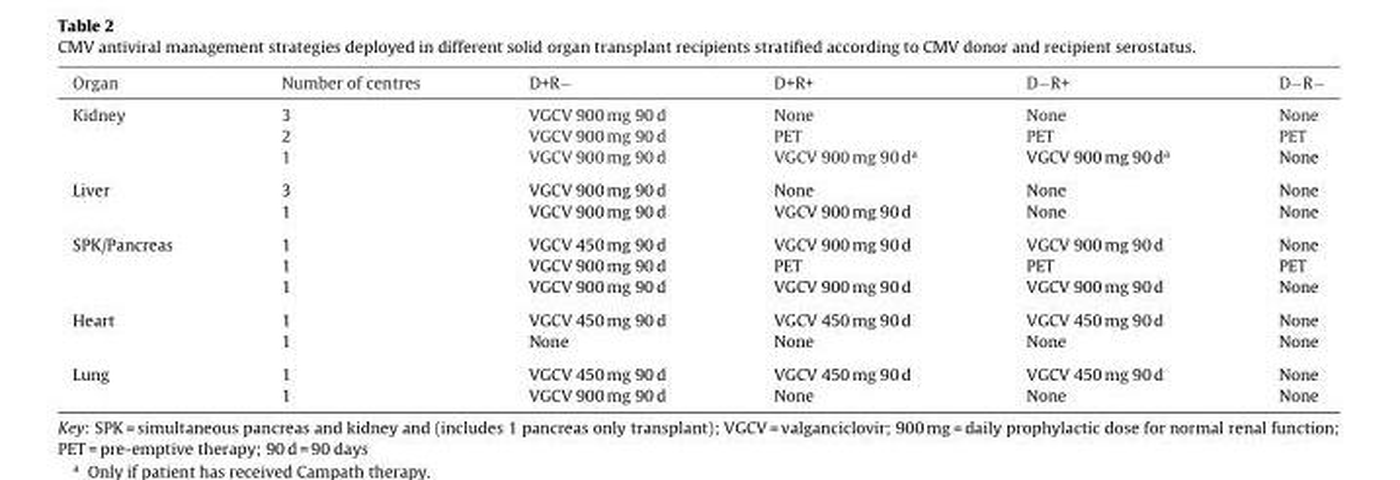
<table><thead><tr><td>Organ</td><td>Number of centres</td><td>D+R−</td><td>D+R+</td><td>D−R+</td><td>D−R−</td></tr></thead><tbody><tr><td rowspan="3">Kidney</td><td>3</td><td>VGCV 900 mg 90 d</td><td>None</td><td>None</td><td>None</td></tr><tr><td>2</td><td>VGCV 900 mg 90 d</td><td>PET</td><td>PET</td><td>PET</td></tr><tr><td>1</td><td>VGCV 900 mg 90 d</td><td>VGCV 900 mg 90 d<sup>a</sup></td><td>VGCV 900 mg 90 d<sup>a</sup></td><td>None</td></tr><tr><td rowspan="2">Liver</td><td>3</td><td>VGCV 900 mg 90 d</td><td>None</td><td>None</td><td>None</td></tr><tr><td>1</td><td>VGCV 900 mg 90 d</td><td>VGCV 900 mg 90 d</td><td>None</td><td>None</td></tr><tr><td rowspan="3">SPK/Pancreas</td><td>1</td><td>VGCV 450 mg 90 d</td><td>VGCV 900 mg 90 d</td><td>VGCV 900 mg 90 d</td><td>None</td></tr><tr><td>1</td><td>VGCV 900 mg 90 d</td><td>PET</td><td>PET</td><td>PET</td></tr><tr><td>1</td><td>VGCV 900 mg 90 d</td><td>VGCV 900 mg 90 d</td><td>VGCV 900 mg 90 d</td><td>None</td></tr><tr><td rowspan="2">Heart</td><td>1</td><td>VGCV 450 mg 90 d</td><td>VGCV 450 mg 90 d</td><td>VGCV 450 mg 90 d</td><td>None</td></tr><tr><td>1</td><td>None</td><td>None</td><td>None</td><td>None</td></tr><tr><td rowspan="2">Lung</td><td>1</td><td>VGCV 450 mg 90 d</td><td>VGCV 450 mg 90 d</td><td>VGCV 450 mg 90 d</td><td>None</td></tr><tr><td>1</td><td>VGCV 900 mg 90 d</td><td>None</td><td>None</td><td>None</td></tr></tbody></table>